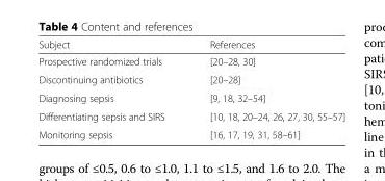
<table><thead><tr><td>Subject</td><td>References</td></tr></thead><tbody><tr><td>Prospective randomized trials</td><td>[20–28, 30]</td></tr><tr><td>Discontinuing antibiotics</td><td>[20–28]</td></tr><tr><td>Diagnosing sepsis</td><td>[9, 18, 32–54]</td></tr><tr><td>Differentiating sepsis and SIRS</td><td>[10, 18, 20–24, 26, 27, 30, 55–57]</td></tr><tr><td>Monitoring sepsis</td><td>[16, 17, 19, 31, 58–61]</td></tr></tbody></table>